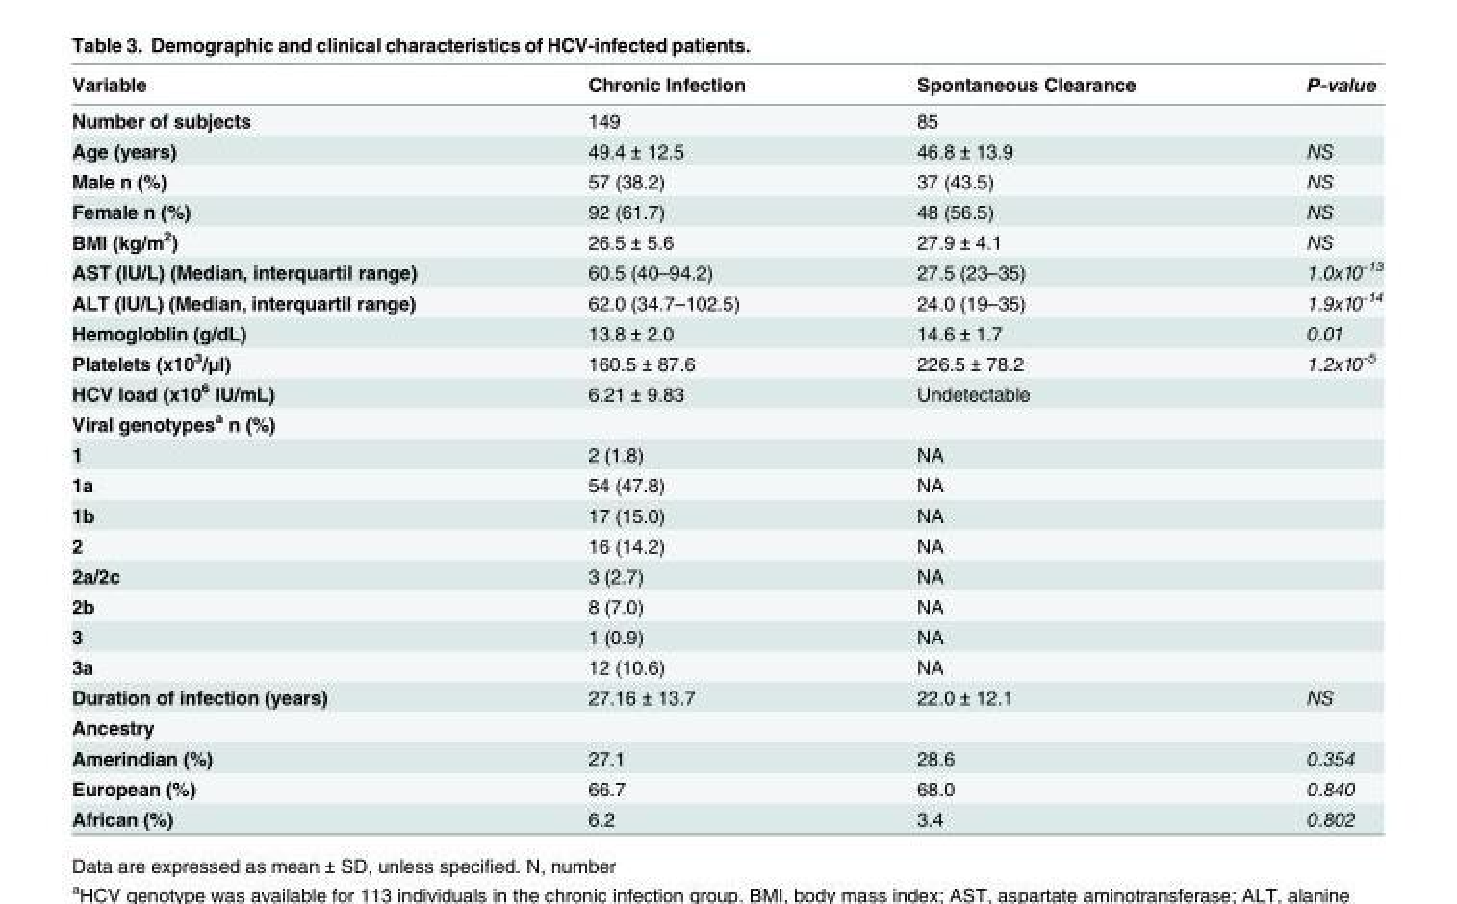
<table><thead><tr><td>Variable</td><td>Chronic Infection</td><td>Spontaneous Clearance</td><td>P-value</td></tr></thead><tbody><tr><td>Number of subjects</td><td>149</td><td>85</td><td></td></tr><tr><td>Age (years)</td><td>49.4 ± 12.5</td><td>46.8 ± 13.9</td><td>NS</td></tr><tr><td>Male n (%)</td><td>57 (38.2)</td><td>37 (43.5)</td><td>NS</td></tr><tr><td>Female n (%)</td><td>92 (61.7)</td><td>48 (56.5)</td><td>NS</td></tr><tr><td>BMI (kg/m<sup>2</sup>)</td><td>26.5 ± 5.6</td><td>27.9 ± 4.1</td><td>NS</td></tr><tr><td>AST (IU/L) (Median, interquartil range)</td><td>60.5 (40–94.2)</td><td>27.5 (23–35)</td><td>1.0x10<sup>-13</sup></td></tr><tr><td>ALT (IU/L) (Median, interquartil range)</td><td>62.0 (34.7–102.5)</td><td>24.0 (19–35)</td><td>1.9x10<sup>-14</sup></td></tr><tr><td>Hemogloblin (g/dL)</td><td>13.8 ± 2.0</td><td>14.6 ± 1.7</td><td>0.01</td></tr><tr><td>Platelets (x10<sup>3</sup>/μl)</td><td>160.5 ± 87.6</td><td>226.5 ± 78.2</td><td>1.2x10<sup>-5</sup></td></tr><tr><td>HCV load (x10<sup>6</sup> IU/mL)</td><td>6.21 ± 9.83</td><td>Undetectable</td><td></td></tr><tr><td colspan="4">Viral genotypes<sup>a</sup> n (%)</td></tr><tr><td>1</td><td>2 (1.8)</td><td>NA</td><td></td></tr><tr><td>1a</td><td>54 (47.8)</td><td>NA</td><td></td></tr><tr><td>1b</td><td>17 (15.0)</td><td>NA</td><td></td></tr><tr><td>2</td><td>16 (14.2)</td><td>NA</td><td></td></tr><tr><td>2a/2c</td><td>3 (2.7)</td><td>NA</td><td></td></tr><tr><td>2b</td><td>8 (7.0)</td><td>NA</td><td></td></tr><tr><td>3</td><td>1 (0.9)</td><td>NA</td><td></td></tr><tr><td>3a</td><td>12 (10.6)</td><td>NA</td><td></td></tr><tr><td>Duration of infection (years)</td><td>27.16 ± 13.7</td><td>22.0 ± 12.1</td><td>NS</td></tr><tr><td colspan="4">Ancestry</td></tr><tr><td>Amerindian (%)</td><td>27.1</td><td>28.6</td><td>0.354</td></tr><tr><td>European (%)</td><td>66.7</td><td>68.0</td><td>0.840</td></tr><tr><td>African (%)</td><td>6.2</td><td>3.4</td><td>0.802</td></tr></tbody></table>